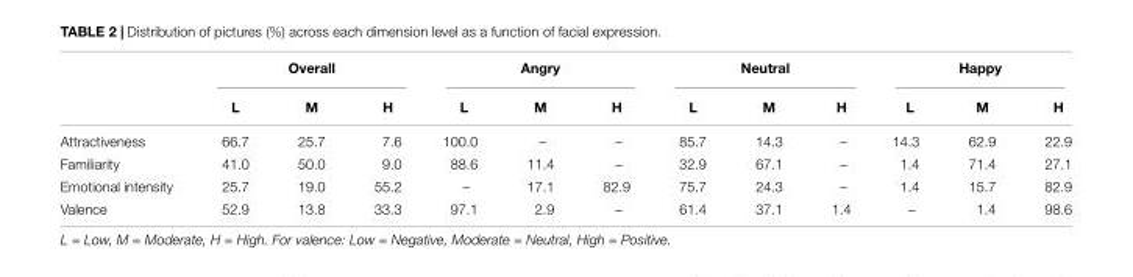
<table><thead><tr><td rowspan="2"></td><td colspan="3">Overall</td><td colspan="3">Angry</td><td colspan="3">Neutral</td><td colspan="3">Happy</td></tr><tr><td>L</td><td>M</td><td>H</td><td>L</td><td>M</td><td>H</td><td>L</td><td>M</td><td>H</td><td>L</td><td>M</td><td>H</td></tr></thead><tbody><tr><td>Attractiveness</td><td>66.7</td><td>25.7</td><td>7.6</td><td>100.0</td><td>–</td><td>–</td><td>85.7</td><td>14.3</td><td>–</td><td>14.3</td><td>62.9</td><td>22.9</td></tr><tr><td>Familiarity</td><td>41.0</td><td>50.0</td><td>9.0</td><td>88.6</td><td>11.4</td><td>–</td><td>32.9</td><td>67.1</td><td>–</td><td>1.4</td><td>71.4</td><td>27.1</td></tr><tr><td>Emotional intensity</td><td>25.7</td><td>19.0</td><td>55.2</td><td>–</td><td>17.1</td><td>82.9</td><td>75.7</td><td>24.3</td><td>–</td><td>1.4</td><td>15.7</td><td>82.9</td></tr><tr><td>Valence</td><td>52.9</td><td>13.8</td><td>33.3</td><td>97.1</td><td>2.9</td><td>–</td><td>61.4</td><td>37.1</td><td>1.4</td><td>–</td><td>1.4</td><td>98.6</td></tr></tbody></table>